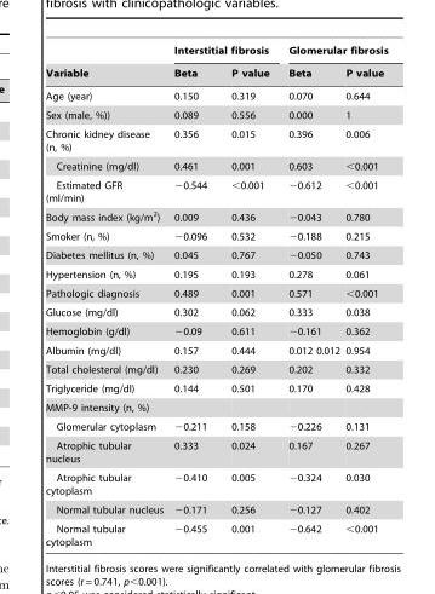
<table><thead><tr><td rowspan="2">Variable</td><td colspan="2">Interstitial fibrosis</td><td colspan="2">Glomerular fibrosis</td></tr><tr><td>Beta</td><td>P value</td><td>Beta</td><td>P value</td></tr></thead><tbody><tr><td>Age (year)</td><td>0.150</td><td>0.319</td><td>0.070</td><td>0.644</td></tr><tr><td>Sex (male, %))</td><td>0.089</td><td>0.556</td><td>0.000</td><td>1</td></tr><tr><td>Chronic kidney disease (n, %)</td><td>0.356</td><td>0.015</td><td>0.396</td><td>0.006</td></tr><tr><td>Creatinine (mg/dl)</td><td>0.461</td><td>0.001</td><td>0.603</td><td>&lt;0.001</td></tr><tr><td>Estimated GFR (ml/min)</td><td>−0.544</td><td>&lt;0.001</td><td>−0.612</td><td>&lt;0.001</td></tr><tr><td>Body mass index (kg/m<sup>2</sup>)</td><td>0.009</td><td>0.436</td><td>−0.043</td><td>0.780</td></tr><tr><td>Smoker (n, %)</td><td>−0.096</td><td>0.532</td><td>−0.188</td><td>0.215</td></tr><tr><td>Diabetes mellitus (n, %)</td><td>0.045</td><td>0.767</td><td>−0.050</td><td>0.743</td></tr><tr><td>Hypertension (n, %)</td><td>0.195</td><td>0.193</td><td>0.278</td><td>0.061</td></tr><tr><td>Pathologic diagnosis</td><td>0.489</td><td>0.001</td><td>0.571</td><td>&lt;0.001</td></tr><tr><td>Glucose (mg/dl)</td><td>0.302</td><td>0.062</td><td>0.333</td><td>0.038</td></tr><tr><td>Hemoglobin (g/dl)</td><td>−0.09</td><td>0.611</td><td>−0.161</td><td>0.362</td></tr><tr><td>Albumin (mg/dl)</td><td>0.157</td><td>0.444</td><td>0.012 0.012</td><td>0.954</td></tr><tr><td>Total cholesterol (mg/dl)</td><td>0.230</td><td>0.269</td><td>0.202</td><td>0.332</td></tr><tr><td>Triglyceride (mg/dl)</td><td>0.144</td><td>0.501</td><td>0.170</td><td>0.428</td></tr><tr><td colspan="5">MMP-9 intensity (n, %)</td></tr><tr><td>Glomerular cytoplasm</td><td>−0.211</td><td>0.158</td><td>−0.226</td><td>0.131</td></tr><tr><td>Atrophic tubular nucleus</td><td>0.333</td><td>0.024</td><td>0.167</td><td>0.267</td></tr><tr><td>Atrophic tubular cytoplasm</td><td>−0.410</td><td>0.005</td><td>−0.324</td><td>0.030</td></tr><tr><td>Normal tubular nucleus</td><td>−0.171</td><td>0.256</td><td>−0.127</td><td>0.402</td></tr><tr><td>Normal tubular cytoplasm</td><td>−0.455</td><td>0.001</td><td>−0.642</td><td>&lt;0.001</td></tr></tbody></table>